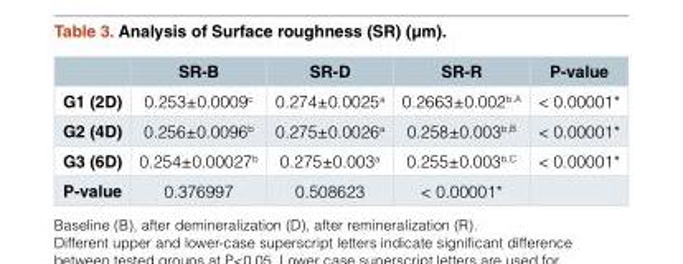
<table><thead><tr><td></td><td>SR-B</td><td>SR-D</td><td>SR-R</td><td>P-value</td></tr></thead><tbody><tr><td>G1 (2D)</td><td>0.253±0.0009<sup>c</sup></td><td>0.274±0.0025<sup>a</sup></td><td>0.2663±0.002<sup>b,A</sup></td><td>&lt; 0.00001*</td></tr><tr><td>G2 (4D)</td><td>0.256±0.0096<sup>b</sup></td><td>0.275±0.0026<sup>a</sup></td><td>0.258±0.003<sup>b,B</sup></td><td>&lt; 0.00001*</td></tr><tr><td>G3 (6D)</td><td>0.254±0.00027<sup>b</sup></td><td>0.275±0.003<sup>a</sup></td><td>0.255±0.003<sup>b,C</sup></td><td>&lt; 0.00001*</td></tr><tr><td>P-value</td><td>0.376997</td><td>0.508623</td><td>&lt; 0.00001*</td><td></td></tr></tbody></table>